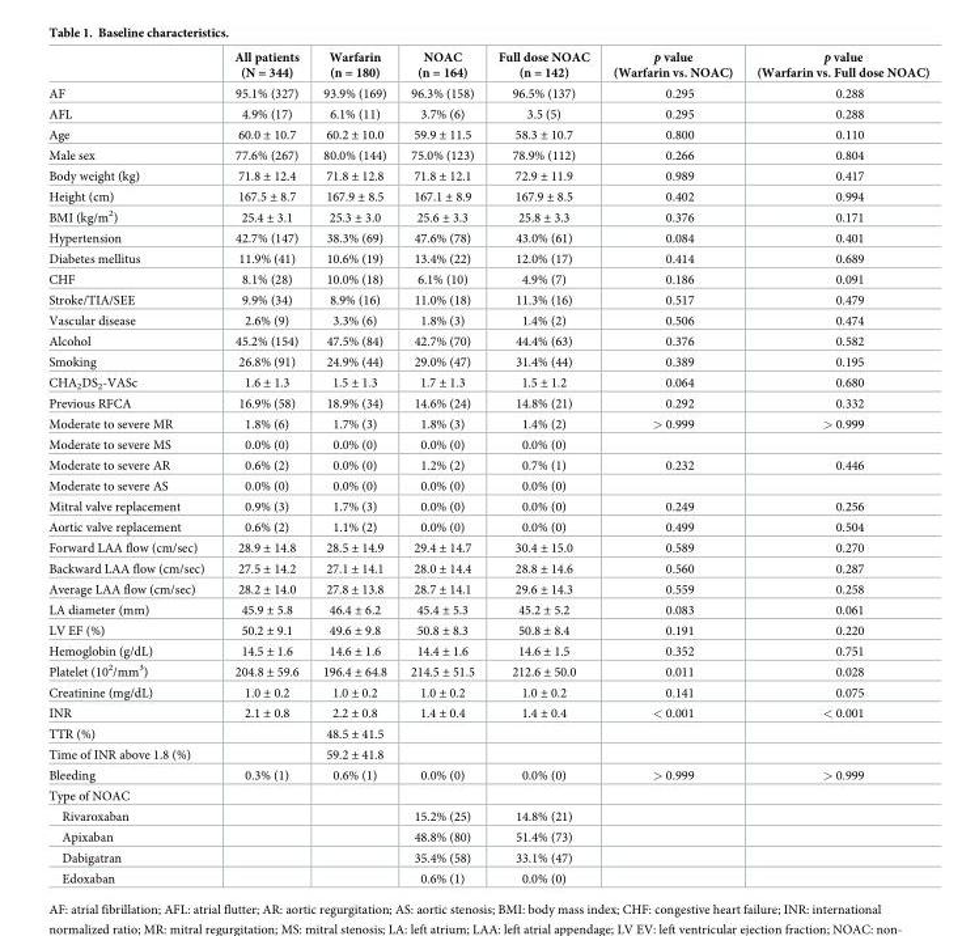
<table><thead><tr><td></td><td>All patients (N = 344)</td><td>Warfarin (n = 180)</td><td>NOAC (n = 164)</td><td>Full dose NOAC (n = 142)</td><td>p value (Warfarin vs. NOAC)</td><td>p value (Warfarin vs. Full dose NOAC)</td></tr></thead><tbody><tr><td>AF</td><td>95.1% (327)</td><td>93.9% (169)</td><td>96.3% (158)</td><td>96.5% (137)</td><td>0.295</td><td>0.288</td></tr><tr><td>AFL</td><td>4.9% (17)</td><td>6.1% (11)</td><td>3.7% (6)</td><td>3.5 (5)</td><td>0.295</td><td>0.288</td></tr><tr><td>Age</td><td>60.0 ± 10.7</td><td>60.2 ± 10.0</td><td>59.9 ± 11.5</td><td>58.3 ± 10.7</td><td>0.800</td><td>0.110</td></tr><tr><td>Male sex</td><td>77.6% (267)</td><td>80.0% (144)</td><td>75.0% (123)</td><td>78.9% (112)</td><td>0.266</td><td>0.804</td></tr><tr><td>Body weight (kg)</td><td>71.8 ± 12.4</td><td>71.8 ± 12.8</td><td>71.8 ± 12.1</td><td>72.9 ± 11.9</td><td>0.989</td><td>0.417</td></tr><tr><td>Height (cm)</td><td>167.5 ± 8.7</td><td>167.9 ± 8.5</td><td>167.1 ± 8.9</td><td>167.9 ± 8.5</td><td>0.402</td><td>0.994</td></tr><tr><td>BMI (kg/m<sup>2</sup>)</td><td>25.4 ± 3.1</td><td>25.3 ± 3.0</td><td>25.6 ± 3.3</td><td>25.8 ± 3.3</td><td>0.376</td><td>0.171</td></tr><tr><td>Hypertension</td><td>42.7% (147)</td><td>38.3% (69)</td><td>47.6% (78)</td><td>43.0% (61)</td><td>0.084</td><td>0.401</td></tr><tr><td>Diabetes mellitus</td><td>11.9% (41)</td><td>10.6% (19)</td><td>13.4% (22)</td><td>12.0% (17)</td><td>0.414</td><td>0.689</td></tr><tr><td>CHF</td><td>8.1% (28)</td><td>10.0% (18)</td><td>6.1% (10)</td><td>4.9% (7)</td><td>0.186</td><td>0.091</td></tr><tr><td>Stroke/TIA/SEE</td><td>9.9% (34)</td><td>8.9% (16)</td><td>11.0% (18)</td><td>11.3% (16)</td><td>0.517</td><td>0.479</td></tr><tr><td>Vascular disease</td><td>2.6% (9)</td><td>3.3% (6)</td><td>1.8% (3)</td><td>1.4% (2)</td><td>0.506</td><td>0.474</td></tr><tr><td>Alcohol</td><td>45.2% (154)</td><td>47.5% (84)</td><td>42.7% (70)</td><td>44.4% (63)</td><td>0.376</td><td>0.582</td></tr><tr><td>Smoking</td><td>26.8% (91)</td><td>24.9% (44)</td><td>29.0% (47)</td><td>31.4% (44)</td><td>0.389</td><td>0.195</td></tr><tr><td>CHA<sub>2</sub>DS<sub>2</sub>-VASc</td><td>1.6 ± 1.3</td><td>1.5 ± 1.3</td><td>1.7 ± 1.3</td><td>1.5 ± 1.2</td><td>0.064</td><td>0.680</td></tr><tr><td>Previous RFCA</td><td>16.9% (58)</td><td>18.9% (34)</td><td>14.6% (24)</td><td>14.8% (21)</td><td>0.292</td><td>0.332</td></tr><tr><td>Moderate to severe MR</td><td>1.8% (6)</td><td>1.7% (3)</td><td>1.8% (3)</td><td>1.4% (2)</td><td>&gt; 0.999</td><td>&gt; 0.999</td></tr><tr><td>Moderate to severe MS</td><td>0.0% (0)</td><td>0.0% (0)</td><td>0.0% (0)</td><td>0.0% (0)</td><td></td><td></td></tr><tr><td>Moderate to severe AR</td><td>0.6% (2)</td><td>0.0% (0)</td><td>1.2% (2)</td><td>0.7% (1)</td><td>0.232</td><td>0.446</td></tr><tr><td>Moderate to severe AS</td><td>0.0% (0)</td><td>0.0% (0)</td><td>0.0% (0)</td><td>0.0% (0)</td><td></td><td></td></tr><tr><td>Mitral valve replacement</td><td>0.9% (3)</td><td>1.7% (3)</td><td>0.0% (0)</td><td>0.0% (0)</td><td>0.249</td><td>0.256</td></tr><tr><td>Aortic valve replacement</td><td>0.6% (2)</td><td>1.1% (2)</td><td>0.0% (0)</td><td>0.0% (0)</td><td>0.499</td><td>0.504</td></tr><tr><td>Forward LAA flow (cm/sec)</td><td>28.9 ± 14.8</td><td>28.5 ± 14.9</td><td>29.4 ± 14.7</td><td>30.4 ± 15.0</td><td>0.589</td><td>0.270</td></tr><tr><td>Backward LAA flow (cm/sec)</td><td>27.5 ± 14.2</td><td>27.1 ± 14.1</td><td>28.0 ± 14.4</td><td>28.8 ± 14.6</td><td>0.560</td><td>0.287</td></tr><tr><td>Average LAA flow (cm/sec)</td><td>28.2 ± 14.0</td><td>27.8 ± 13.8</td><td>28.7 ± 14.1</td><td>29.6 ± 14.3</td><td>0.559</td><td>0.258</td></tr><tr><td>LA diameter (mm)</td><td>45.9 ± 5.8</td><td>46.4 ± 6.2</td><td>45.4 ± 5.3</td><td>45.2 ± 5.2</td><td>0.083</td><td>0.061</td></tr><tr><td>LV EF (%)</td><td>50.2 ± 9.1</td><td>49.6 ± 9.8</td><td>50.8 ± 8.3</td><td>50.8 ± 8.4</td><td>0.191</td><td>0.220</td></tr><tr><td>Hemoglobin (g/dL)</td><td>14.5 ± 1.6</td><td>14.6 ± 1.6</td><td>14.4 ± 1.6</td><td>14.6 ± 1.5</td><td>0.352</td><td>0.751</td></tr><tr><td>Platelet (10<sup>2</sup>/mm<sup>3</sup>)</td><td>204.8 ± 59.6</td><td>196.4 ± 64.8</td><td>214.5 ± 51.5</td><td>212.6 ± 50.0</td><td>0.011</td><td>0.028</td></tr><tr><td>Creatinine (mg/dL)</td><td>1.0 ± 0.2</td><td>1.0 ± 0.2</td><td>1.0 ± 0.2</td><td>1.0 ± 0.2</td><td>0.141</td><td>0.075</td></tr><tr><td>INR</td><td>2.1 ± 0.8</td><td>2.2 ± 0.8</td><td>1.4 ± 0.4</td><td>1.4 ± 0.4</td><td>&lt; 0.001</td><td>&lt; 0.001</td></tr><tr><td>TTR (%)</td><td></td><td>48.5 ± 41.5</td><td></td><td></td><td></td><td></td></tr><tr><td>Time of INR above 1.8 (%)</td><td></td><td>59.2 ± 41.8</td><td></td><td></td><td></td><td></td></tr><tr><td>Bleeding</td><td>0.3% (1)</td><td>0.6% (1)</td><td>0.0% (0)</td><td>0.0% (0)</td><td>&gt; 0.999</td><td>&gt; 0.999</td></tr><tr><td colspan="7">Type of NOAC</td></tr><tr><td>Rivaroxaban</td><td></td><td></td><td>15.2% (25)</td><td>14.8% (21)</td><td></td><td></td></tr><tr><td>Apixaban</td><td></td><td></td><td>48.8% (80)</td><td>51.4% (73)</td><td></td><td></td></tr><tr><td>Dabigatran</td><td></td><td></td><td>35.4% (58)</td><td>33.1% (47)</td><td></td><td></td></tr><tr><td>Edoxaban</td><td></td><td></td><td>0.6% (1)</td><td>0.0% (0)</td><td></td><td></td></tr></tbody></table>